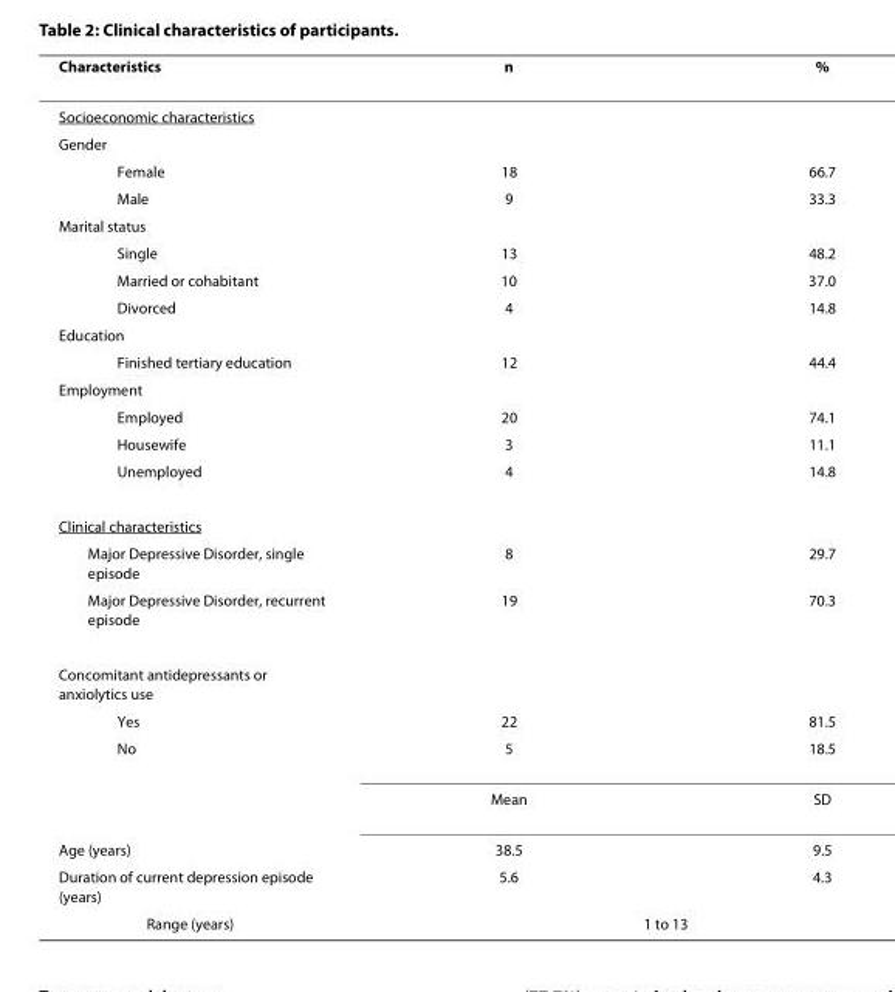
<table><thead><tr><td>Characteristics</td><td>n</td><td>%</td></tr></thead><tbody><tr><td colspan="3">Socioeconomic characteristics</td></tr><tr><td colspan="3">Gender</td></tr><tr><td>Female</td><td>18</td><td>66.7</td></tr><tr><td>Male</td><td>9</td><td>33.3</td></tr><tr><td colspan="3">Marital status</td></tr><tr><td>Single</td><td>13</td><td>48.2</td></tr><tr><td>Married or cohabitant</td><td>10</td><td>37.0</td></tr><tr><td>Divorced</td><td>4</td><td>14.8</td></tr><tr><td colspan="3">Education</td></tr><tr><td>Finished tertiary education</td><td>12</td><td>44.4</td></tr><tr><td colspan="3">Employment</td></tr><tr><td>Employed</td><td>20</td><td>74.1</td></tr><tr><td>Housewife</td><td>3</td><td>11.1</td></tr><tr><td>Unemployed</td><td>4</td><td>14.8</td></tr><tr><td colspan="3">Clinical characteristics</td></tr><tr><td>Major Depressive Disorder, single episode</td><td>8</td><td>29.7</td></tr><tr><td>Major Depressive Disorder, recurrent episode</td><td>19</td><td>70.3</td></tr><tr><td colspan="3">Concomitant antidepressants or anxiolytics use</td></tr><tr><td>Yes</td><td>22</td><td>81.5</td></tr><tr><td rowspan="2">No</td><td>5</td><td>18.5</td></tr><tr><td>Mean</td><td>SD</td></tr><tr><td>Age (years)</td><td>38.5</td><td>9.5</td></tr><tr><td>Duration of current depression episode (years)</td><td>5.6</td><td>4.3</td></tr><tr><td>Range (years)</td><td colspan="2">1 to 13</td></tr></tbody></table>